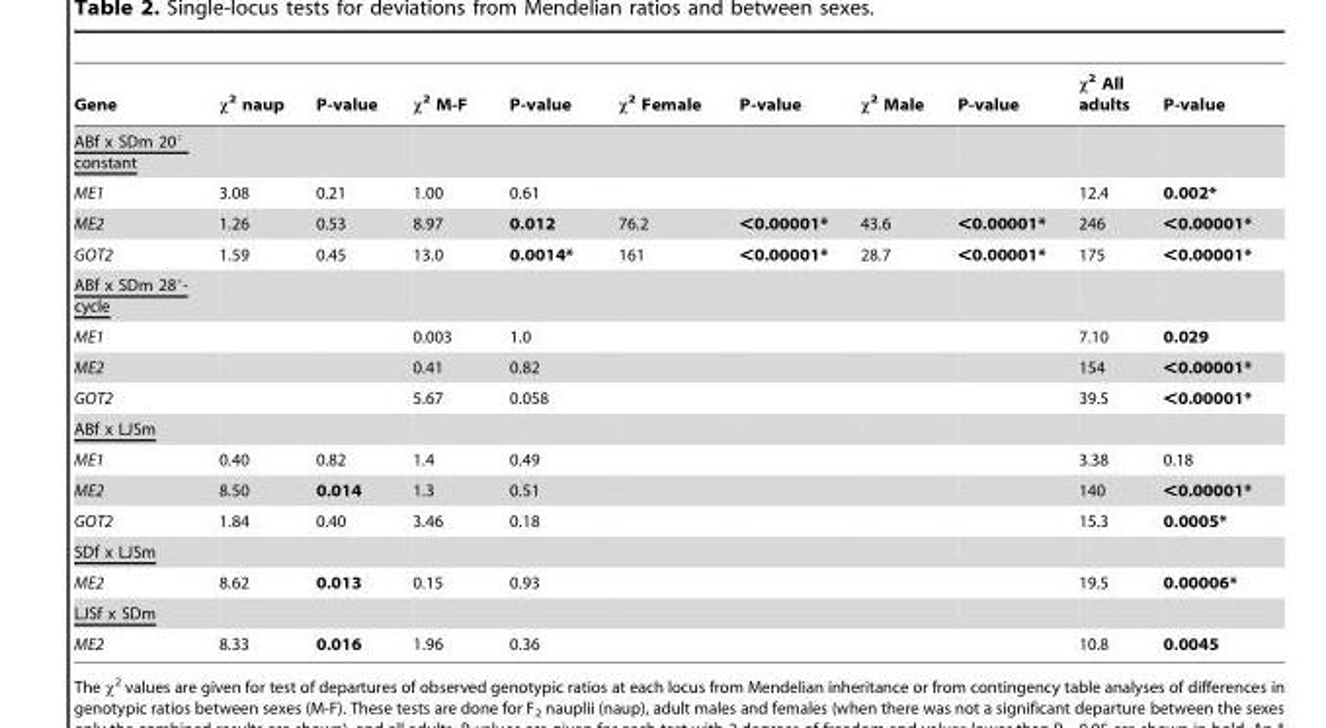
<table><thead><tr><td>Gene</td><td>χ<sup>2</sup> naup</td><td>P-value</td><td>χ<sup>2</sup> M-F</td><td>P-value</td><td>χ<sup>2</sup> Female</td><td>P-value</td><td>χ<sup>2</sup> Male</td><td>P-value</td><td>χ<sup>2</sup> All adults</td><td>P-value</td></tr></thead><tbody><tr><td colspan="11">ABf x SDm 20° constant</td></tr><tr><td>ME1</td><td>3.08</td><td>0.21</td><td>1.00</td><td>0.61</td><td></td><td></td><td></td><td></td><td>12.4</td><td>0.002*</td></tr><tr><td>ME2</td><td>1.26</td><td>0.53</td><td>8.97</td><td>0.012</td><td>76.2</td><td>&lt;0.00001*</td><td>43.6</td><td>&lt;0.00001*</td><td>246</td><td>&lt;0.00001*</td></tr><tr><td>GOT2</td><td>1.59</td><td>0.45</td><td>13.0</td><td>0.0014*</td><td>161</td><td>&lt;0.00001*</td><td>28.7</td><td>&lt;0.00001*</td><td>175</td><td>&lt;0.00001*</td></tr><tr><td colspan="11">ABf x SDm 28°- cycle</td></tr><tr><td>ME1</td><td></td><td></td><td>0.003</td><td>1.0</td><td></td><td></td><td></td><td></td><td>7.10</td><td>0.029</td></tr><tr><td>ME2</td><td></td><td></td><td>0.41</td><td>0.82</td><td></td><td></td><td></td><td></td><td>154</td><td>&lt;0.00001*</td></tr><tr><td>GOT2</td><td></td><td></td><td>5.67</td><td>0.058</td><td></td><td></td><td></td><td></td><td>39.5</td><td>&lt;0.00001*</td></tr><tr><td colspan="11">ABf x LJSm</td></tr><tr><td>ME1</td><td>0.40</td><td>0.82</td><td>1.4</td><td>0.49</td><td></td><td></td><td></td><td></td><td>3.38</td><td>0.18</td></tr><tr><td>ME2</td><td>8.50</td><td>0.014</td><td>1.3</td><td>0.51</td><td></td><td></td><td></td><td></td><td>140</td><td>&lt;0.00001*</td></tr><tr><td>GOT2</td><td>1.84</td><td>0.40</td><td>3.46</td><td>0.18</td><td></td><td></td><td></td><td></td><td>15.3</td><td>0.0005*</td></tr><tr><td colspan="11">SDf x LJSm</td></tr><tr><td>ME2</td><td>8.62</td><td>0.013</td><td>0.15</td><td>0.93</td><td></td><td></td><td></td><td></td><td>19.5</td><td>0.00006*</td></tr><tr><td colspan="11">LJSf x SDm</td></tr><tr><td>ME2</td><td>8.33</td><td>0.016</td><td>1.96</td><td>0.36</td><td></td><td></td><td></td><td></td><td>10.8</td><td>0.0045</td></tr></tbody></table>